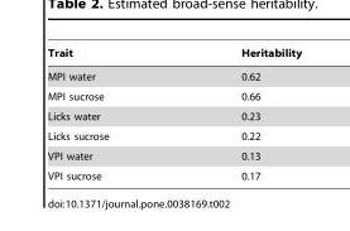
<table><thead><tr><td>Trait</td><td>Heritability</td></tr></thead><tbody><tr><td>MPI water</td><td>0.62</td></tr><tr><td>MPI sucrose</td><td>0.66</td></tr><tr><td>Licks water</td><td>0.23</td></tr><tr><td>Licks sucrose</td><td>0.22</td></tr><tr><td>VPI water</td><td>0.13</td></tr><tr><td>VPI sucrose</td><td>0.17</td></tr></tbody></table>